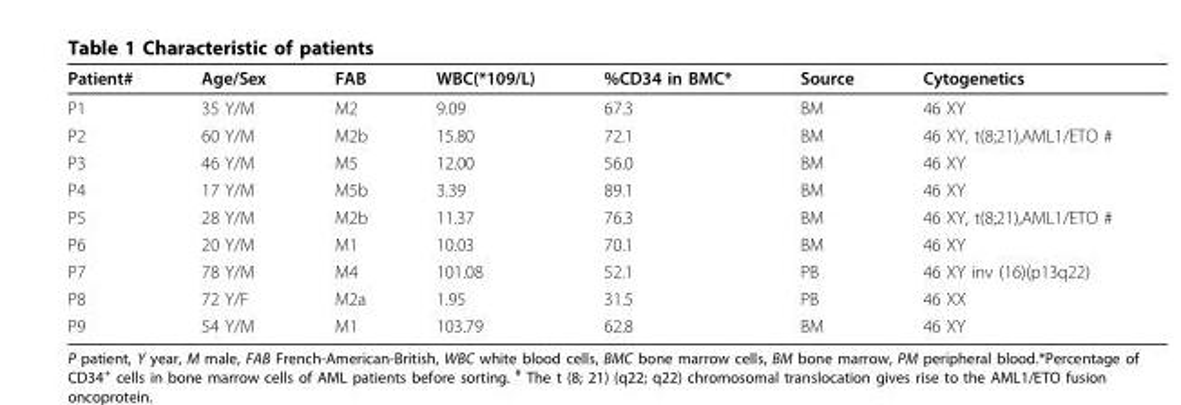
<table><thead><tr><td>Patient#</td><td>Age/Sex</td><td>FAB</td><td>WBC(*109/L)</td><td>%CD34 in BMC*</td><td>Source</td><td>Cytogenetics</td></tr></thead><tbody><tr><td>P1</td><td>35 Y/M</td><td>M2</td><td>9.09</td><td>67.3</td><td>BM</td><td>46 XY</td></tr><tr><td>P2</td><td>60 Y/M</td><td>M2b</td><td>15.80</td><td>72.1</td><td>BM</td><td>46 XY, t(8;21),AML1/ETO #</td></tr><tr><td>P3</td><td>46 Y/M</td><td>M5</td><td>12.00</td><td>56.0</td><td>BM</td><td>46 XY</td></tr><tr><td>P4</td><td>17 Y/M</td><td>M5b</td><td>3.39</td><td>89.1</td><td>BM</td><td>46 XY</td></tr><tr><td>P5</td><td>28 Y/M</td><td>M2b</td><td>11.37</td><td>76.3</td><td>BM</td><td>46 XY, t(8;21),AML1/ETO #</td></tr><tr><td>P6</td><td>20 Y/M</td><td>M1</td><td>10.03</td><td>70.1</td><td>BM</td><td>46 XY</td></tr><tr><td>P7</td><td>78 Y/M</td><td>M4</td><td>101.08</td><td>52.1</td><td>PB</td><td>46 XY inv (16)(p13q22)</td></tr><tr><td>P8</td><td>72 Y/F</td><td>M2a</td><td>1.95</td><td>31.5</td><td>PB</td><td>46 XX</td></tr><tr><td>P9</td><td>54 Y/M</td><td>M1</td><td>103.79</td><td>62.8</td><td>BM</td><td>46 XY</td></tr></tbody></table>